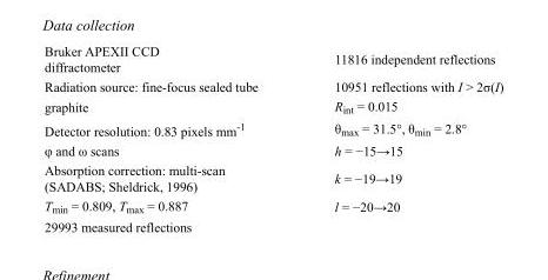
<table><tbody><tr><td>Bruker APEXII CCD diffractometer</td><td>11816 independent reflections</td></tr><tr><td>Radiation source: fine-focus sealed tube</td><td>10951 reflections with I &gt; 2σ(I)</td></tr><tr><td>graphite</td><td>R<sub>int</sub> = 0.015</td></tr><tr><td>Detector resolution: 0.83 pixels mm<sup>-1</sup></td><td>θ<sub>max</sub> = 31.5°, θ<sub>min</sub> = 2.8°</td></tr><tr><td>φ and ω scans</td><td>h = −15→15</td></tr><tr><td>Absorption correction: multi-scan (SADABS; Sheldrick, 1996)</td><td>k = −19→19</td></tr><tr><td>T<sub>min</sub> = 0.809, T<sub>max</sub> = 0.887</td><td>l = −20→20</td></tr><tr><td>29993 measured reflections</td><td></td></tr></tbody></table>